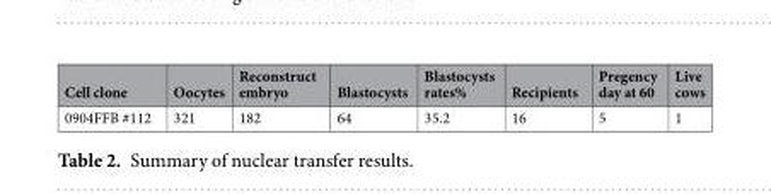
<table><thead><tr><td>Cell clone</td><td>Oocytes</td><td>Reconstruct embryo</td><td>Blastocysts</td><td>Blastocysts rates%</td><td>Recipients</td><td>Pregency day at 60</td><td>Live cows</td></tr></thead><tbody><tr><td>0904FFB #112</td><td>321</td><td>182</td><td>64</td><td>35.2</td><td>16</td><td>5</td><td>1</td></tr></tbody></table>